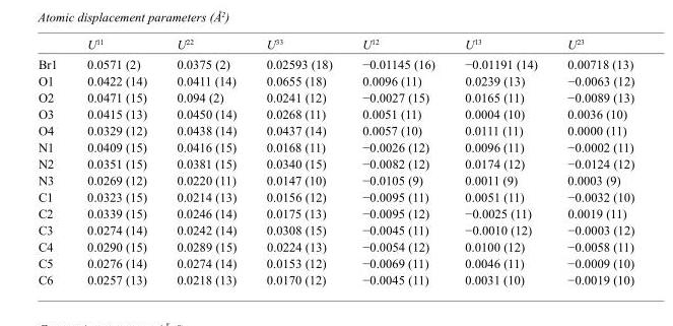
<table><thead><tr><td></td><td>U<sup>11</sup></td><td>U<sup>22</sup></td><td>U<sup>33</sup></td><td>U<sup>12</sup></td><td>U<sup>13</sup></td><td>U<sup>23</sup></td></tr></thead><tbody><tr><td>Br1</td><td>0.0571 (2)</td><td>0.0375 (2)</td><td>0.02593 (18)</td><td>−0.01145 (16)</td><td>−0.01191 (14)</td><td>0.00718 (13)</td></tr><tr><td>O1</td><td>0.0422 (14)</td><td>0.0411 (14)</td><td>0.0655 (18)</td><td>0.0096 (11)</td><td>0.0239 (13)</td><td>−0.0063 (12)</td></tr><tr><td>O2</td><td>0.0471 (15)</td><td>0.094 (2)</td><td>0.0241 (12)</td><td>−0.0027 (15)</td><td>0.0165 (11)</td><td>−0.0089 (13)</td></tr><tr><td>O3</td><td>0.0415 (13)</td><td>0.0450 (14)</td><td>0.0268 (11)</td><td>0.0051 (11)</td><td>0.0004 (10)</td><td>0.0036 (10)</td></tr><tr><td>O4</td><td>0.0329 (12)</td><td>0.0438 (14)</td><td>0.0437 (14)</td><td>0.0057 (10)</td><td>0.0111 (11)</td><td>0.0000 (11)</td></tr><tr><td>N1</td><td>0.0409 (15)</td><td>0.0416 (15)</td><td>0.0168 (11)</td><td>−0.0026 (12)</td><td>0.0096 (11)</td><td>−0.0002 (11)</td></tr><tr><td>N2</td><td>0.0351 (15)</td><td>0.0381 (15)</td><td>0.0340 (15)</td><td>−0.0082 (12)</td><td>0.0174 (12)</td><td>−0.0124 (12)</td></tr><tr><td>N3</td><td>0.0269 (12)</td><td>0.0220 (11)</td><td>0.0147 (10)</td><td>−0.0105 (9)</td><td>0.0011 (9)</td><td>0.0003 (9)</td></tr><tr><td>C1</td><td>0.0323 (15)</td><td>0.0214 (13)</td><td>0.0156 (12)</td><td>−0.0095 (11)</td><td>0.0051 (11)</td><td>−0.0032 (10)</td></tr><tr><td>C2</td><td>0.0339 (15)</td><td>0.0246 (14)</td><td>0.0175 (13)</td><td>−0.0095 (12)</td><td>−0.0025 (11)</td><td>0.0019 (11)</td></tr><tr><td>C3</td><td>0.0274 (14)</td><td>0.0242 (14)</td><td>0.0308 (15)</td><td>−0.0045 (11)</td><td>−0.0010 (12)</td><td>−0.0003 (12)</td></tr><tr><td>C4</td><td>0.0290 (15)</td><td>0.0289 (15)</td><td>0.0224 (13)</td><td>−0.0054 (12)</td><td>0.0100 (12)</td><td>−0.0058 (11)</td></tr><tr><td>C5</td><td>0.0276 (14)</td><td>0.0274 (14)</td><td>0.0153 (12)</td><td>−0.0069 (11)</td><td>0.0046 (11)</td><td>−0.0009 (10)</td></tr><tr><td>C6</td><td>0.0257 (13)</td><td>0.0218 (13)</td><td>0.0170 (12)</td><td>−0.0045 (11)</td><td>0.0031 (10)</td><td>−0.0019 (10)</td></tr></tbody></table>